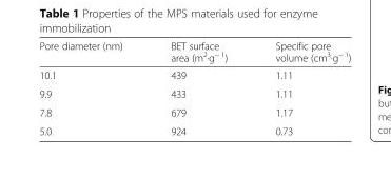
<table><thead><tr><td>Pore diameter (nm)</td><td>BET surface area (m<sup>2</sup>·g<sup>− 1</sup>)</td><td>Specific pore volume (cm<sup>3</sup>·g<sup>− 1</sup>)</td></tr></thead><tbody><tr><td>10.1</td><td>439</td><td>1.11</td></tr><tr><td>9.9</td><td>433</td><td>1.11</td></tr><tr><td>7.8</td><td>679</td><td>1.17</td></tr><tr><td>5.0</td><td>924</td><td>0.73</td></tr></tbody></table>